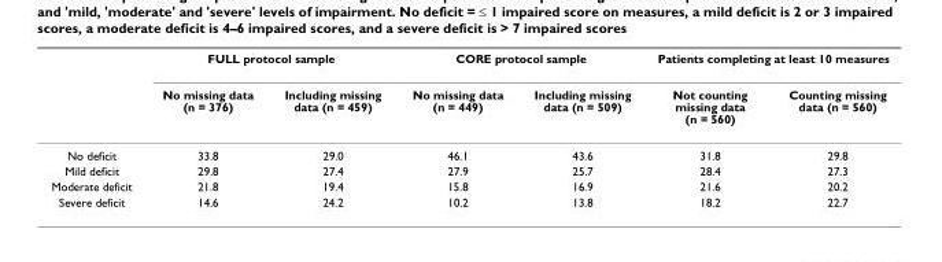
<table><thead><tr><td rowspan="2"></td><td colspan="2">FULL protocol sample</td><td colspan="2">CORE protocol sample</td><td colspan="2">Patients completing at least 10 measures</td></tr><tr><td>No missing data (n = 376)</td><td>Including missing data (n = 459)</td><td>No missing data (n = 449)</td><td>Including missing data (n = 509)</td><td>Not counting missing data (n = 560)</td><td>Counting missing data (n = 560)</td></tr></thead><tbody><tr><td>No deficit</td><td>33.8</td><td>29.0</td><td>46.1</td><td>43.6</td><td>31.8</td><td>29.8</td></tr><tr><td>Mild deficit</td><td>29.8</td><td>27.4</td><td>27.9</td><td>25.7</td><td>28.4</td><td>27.3</td></tr><tr><td>Moderate deficit</td><td>21.8</td><td>19.4</td><td>15.8</td><td>16.9</td><td>21.6</td><td>20.2</td></tr><tr><td>Severe deficit</td><td>14.6</td><td>24.2</td><td>10.2</td><td>13.8</td><td>18.2</td><td>22.7</td></tr></tbody></table>